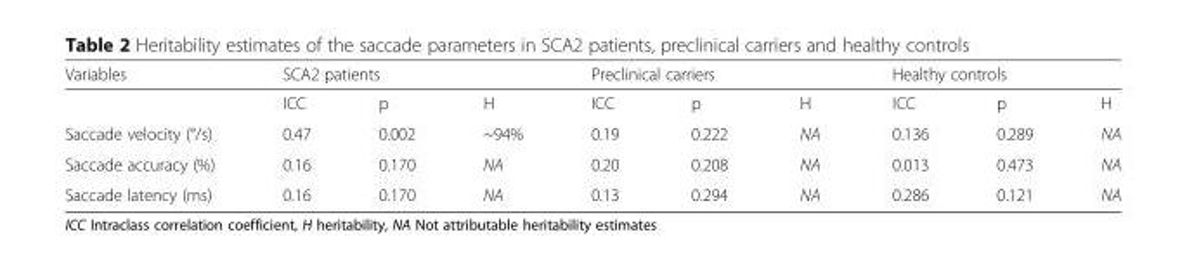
<table><thead><tr><td rowspan="2">Variables</td><td colspan="3">SCA2 patients</td><td colspan="3">Preclinical carriers</td><td colspan="3">Healthy controls</td></tr><tr><td>ICC</td><td>p</td><td>H</td><td>ICC</td><td>p</td><td>H</td><td>ICC</td><td>p</td><td>H</td></tr></thead><tbody><tr><td>Saccade velocity (°/s)</td><td>0.47</td><td>0.002</td><td>~94%</td><td>0.19</td><td>0.222</td><td>NA</td><td>0.136</td><td>0.289</td><td>NA</td></tr><tr><td>Saccade accuracy (%)</td><td>0.16</td><td>0.170</td><td>NA</td><td>0.20</td><td>0.208</td><td>NA</td><td>0.013</td><td>0.473</td><td>NA</td></tr><tr><td>Saccade latency (ms)</td><td>0.16</td><td>0.170</td><td>NA</td><td>0.13</td><td>0.294</td><td>NA</td><td>0.286</td><td>0.121</td><td>NA</td></tr></tbody></table>